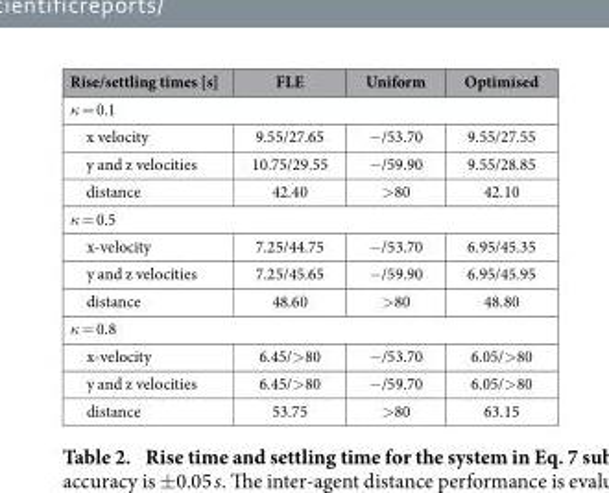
<table><thead><tr><td>Rise/settling times [s]</td><td>FLE</td><td>Uniform</td><td>Optimised</td></tr></thead><tbody><tr><td colspan="4">κ = 0.1</td></tr><tr><td>x velocity</td><td>9.55/27.65</td><td>− /53.70</td><td>9.55/27.55</td></tr><tr><td>y and z velocities</td><td>10.75/29.55</td><td>− /59.90</td><td>9.55/28.85</td></tr><tr><td>distance</td><td>42.40</td><td>&gt; 80</td><td>42.10</td></tr><tr><td colspan="4">κ = 0.5</td></tr><tr><td>x-velocity</td><td>7.25/44.75</td><td>− /53.70</td><td>6.95/45.35</td></tr><tr><td>y and z velocities</td><td>7.25/45.65</td><td>− /59.90</td><td>6.95/45.95</td></tr><tr><td>distance</td><td>48.60</td><td>&gt; 80</td><td>48.80</td></tr><tr><td colspan="4">κ = 0.8</td></tr><tr><td>x-velocity</td><td>6.45/&gt; 80</td><td>− /53.70</td><td>6.05/&gt; 80</td></tr><tr><td>y and z velocities</td><td>6.45/&gt; 80</td><td>− /59.70</td><td>6.05/&gt; 80</td></tr><tr><td>distance</td><td>53.75</td><td>&gt; 80</td><td>63.15</td></tr></tbody></table>